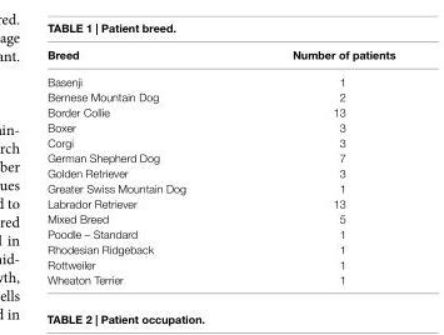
<table><thead><tr><td>Breed</td><td>number of patients</td></tr></thead><tbody><tr><td>Basenji</td><td>1</td></tr><tr><td>Bernese Mountain Dog</td><td>2</td></tr><tr><td>Border Collie</td><td>13</td></tr><tr><td>Boxer</td><td>3</td></tr><tr><td>Corgi</td><td>3</td></tr><tr><td>German Shepherd Dog</td><td>7</td></tr><tr><td>Golden Retriever</td><td>3</td></tr><tr><td>Greater Swiss Mountain Dog</td><td>1</td></tr><tr><td>Labrador Retriever</td><td>13</td></tr><tr><td>Mixed Breed</td><td>5</td></tr><tr><td>Poodle – Standard</td><td>1</td></tr><tr><td>Rhodesian Ridgeback</td><td>1</td></tr><tr><td>Rottweiler</td><td>1</td></tr><tr><td>Wheaton Terrier</td><td>1</td></tr></tbody></table>